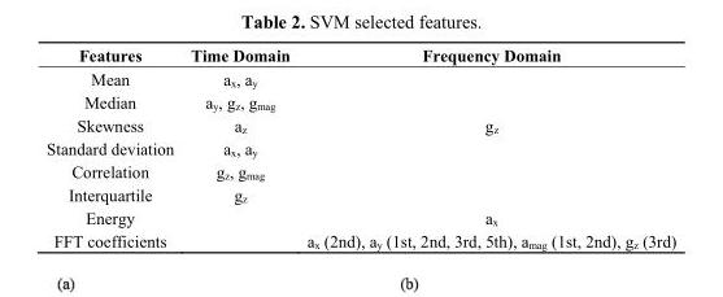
<table><thead><tr><td>Features</td><td>Time Domain</td><td>Frequency Domain</td></tr></thead><tbody><tr><td>Mean</td><td>a<sub>x</sub>, a<sub>y</sub></td><td></td></tr><tr><td>Median</td><td>a<sub>y</sub>, g<sub>z</sub>, g<sub>mag</sub></td><td></td></tr><tr><td>Skewness</td><td>a<sub>z</sub></td><td>g<sub>z</sub></td></tr><tr><td>Standard deviation</td><td>a<sub>x</sub>, a<sub>y</sub></td><td></td></tr><tr><td>Correlation</td><td>g<sub>z</sub>, g<sub>mag</sub></td><td></td></tr><tr><td>Interquartile</td><td>g<sub>z</sub></td><td></td></tr><tr><td>Energy</td><td></td><td>a<sub>x</sub></td></tr><tr><td>FFT coefficients</td><td></td><td>a<sub>x</sub> (2nd), a<sub>y</sub> (1st, 2nd, 3rd, 5th), a<sub>mag</sub> (1st, 2nd), g<sub>z</sub> (3rd)</td></tr></tbody></table>